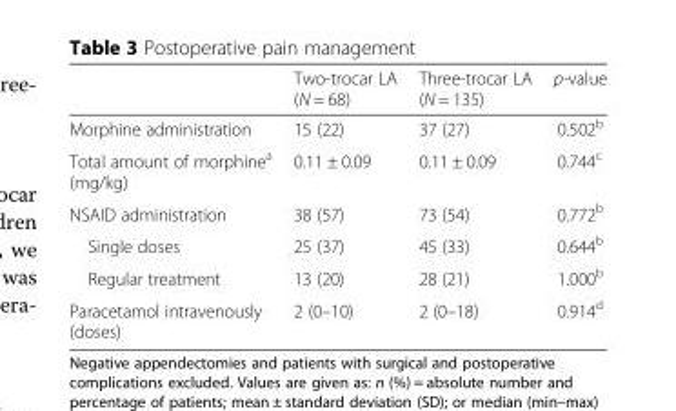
<table><thead><tr><td></td><td>Two-trocar LA (N = 68)</td><td>Three-trocar LA (N = 135)</td><td>p-value</td></tr></thead><tbody><tr><td>Morphine administration</td><td>15 (22)</td><td>37 (27)</td><td>0.502<sup>b</sup></td></tr><tr><td>Total amount of morphine<sup>a</sup> (mg/kg)</td><td>0.11 ± 0.09</td><td>0.11 ± 0.09</td><td>0.744<sup>c</sup></td></tr><tr><td>NSAID administration</td><td>38 (57)</td><td>73 (54)</td><td>0.772<sup>b</sup></td></tr><tr><td>Single doses</td><td>25 (37)</td><td>45 (33)</td><td>0.644<sup>b</sup></td></tr><tr><td>Regular treatment</td><td>13 (20)</td><td>28 (21)</td><td>1.000<sup>b</sup></td></tr><tr><td>Paracetamol intravenously (doses)</td><td>2 (0–10)</td><td>2 (0–18)</td><td>0.914<sup>d</sup></td></tr></tbody></table>